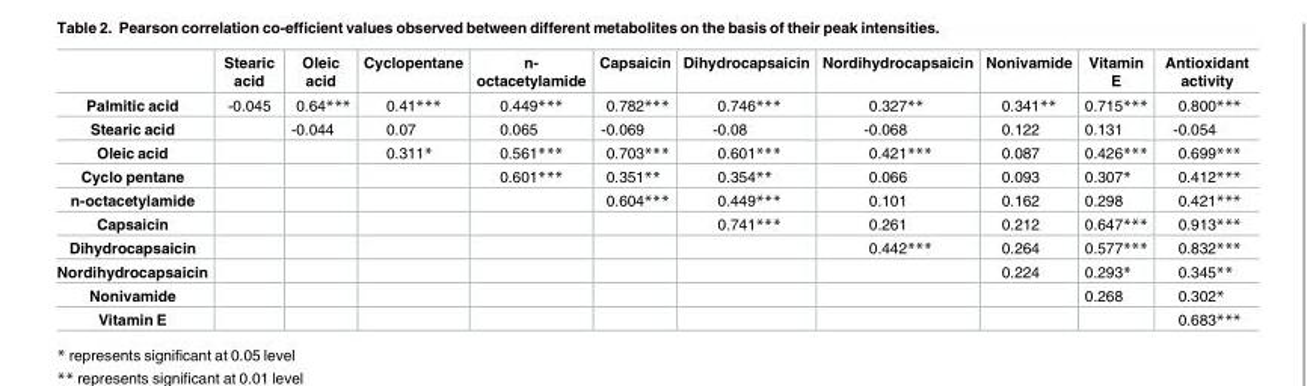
<table><thead><tr><td></td><td>Stearic acid</td><td>Oleic acid</td><td>Cyclopentane</td><td>n- octacetylamide</td><td>Capsaicin</td><td>Dihydrocapsaicin</td><td>Nordihydrocapsaicin</td><td>Nonivamide</td><td>Vitamin E</td><td>Antioxidant activity</td></tr></thead><tbody><tr><td>Palmitic acid</td><td>-0.045</td><td>0.64***</td><td>0.41***</td><td>0.449***</td><td>0.782***</td><td>0.746***</td><td>0.327**</td><td>0.341**</td><td>0.715***</td><td>0.800***</td></tr><tr><td>Stearic acid</td><td></td><td>-0.044</td><td>0.07</td><td>0.065</td><td>-0.069</td><td>-0.08</td><td>-0.068</td><td>0.122</td><td>0.131</td><td>-0.054</td></tr><tr><td>Oleic acid</td><td></td><td></td><td>0.311*</td><td>0.561***</td><td>0.703***</td><td>0.601***</td><td>0.421***</td><td>0.087</td><td>0.426***</td><td>0.699***</td></tr><tr><td>Cyclo pentane</td><td></td><td></td><td></td><td>0.601***</td><td>0.351**</td><td>0.354**</td><td>0.066</td><td>0.093</td><td>0.307*</td><td>0.412***</td></tr><tr><td>n-octacetylamide</td><td></td><td></td><td></td><td></td><td>0.604***</td><td>0.449***</td><td>0.101</td><td>0.162</td><td>0.298</td><td>0.421***</td></tr><tr><td>Capsaicin</td><td></td><td></td><td></td><td></td><td></td><td>0.741***</td><td>0.261</td><td>0.212</td><td>0.647***</td><td>0.913***</td></tr><tr><td>Dihydrocapsaicin</td><td></td><td></td><td></td><td></td><td></td><td></td><td>0.442***</td><td>0.264</td><td>0.577***</td><td>0.832***</td></tr><tr><td>Nordihydrocapsaicin</td><td></td><td></td><td></td><td></td><td></td><td></td><td></td><td>0.224</td><td>0.293*</td><td>0.345**</td></tr><tr><td>Nonivamide</td><td></td><td></td><td></td><td></td><td></td><td></td><td></td><td></td><td>0.268</td><td>0.302*</td></tr><tr><td>Vitamin E</td><td></td><td></td><td></td><td></td><td></td><td></td><td></td><td></td><td></td><td>0.683***</td></tr></tbody></table>